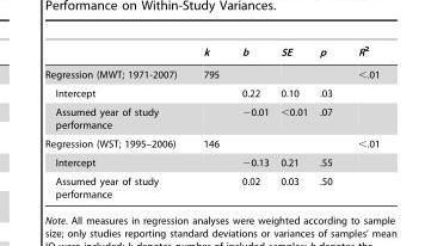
<table><thead><tr><td></td><td>k</td><td>b</td><td>SE</td><td>p</td><td>R<sup>2</sup></td></tr></thead><tbody><tr><td>Regression (MWT; 1971-2007)</td><td>795</td><td></td><td></td><td></td><td>&lt;.01</td></tr><tr><td>Intercept</td><td></td><td>0.22</td><td>0.10</td><td>.03</td><td></td></tr><tr><td>Assumed year of study performance</td><td></td><td>−0.01</td><td>&lt;0.01</td><td>.07</td><td></td></tr><tr><td>Regression (WST; 1995–2006)</td><td>146</td><td></td><td></td><td></td><td>&lt;.01</td></tr><tr><td>Intercept</td><td></td><td>−0.13</td><td>0.21</td><td>.55</td><td></td></tr><tr><td>Assumed year of study performance</td><td></td><td>0.02</td><td>0.03</td><td>.50</td><td></td></tr></tbody></table>